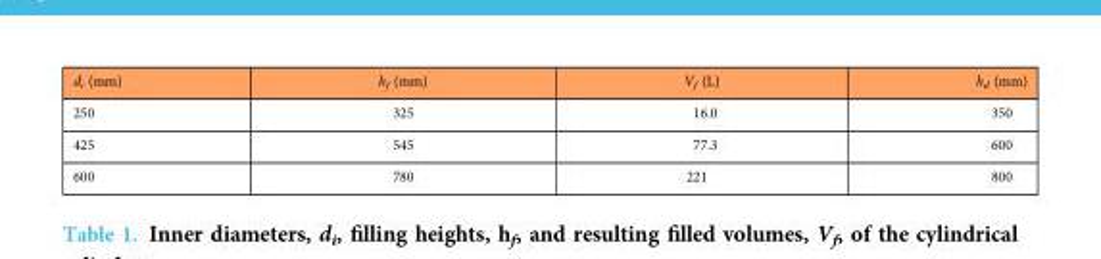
<table><thead><tr><td>d<sub>i</sub> (mm)</td><td>h<sub>f</sub> (mm)</td><td>V<sub>f</sub> (L)</td><td>h<sub>d</sub> (mm)</td></tr></thead><tbody><tr><td>250</td><td>325</td><td>16.0</td><td>350</td></tr><tr><td>425</td><td>545</td><td>77.3</td><td>600</td></tr><tr><td>600</td><td>780</td><td>221</td><td>800</td></tr></tbody></table>